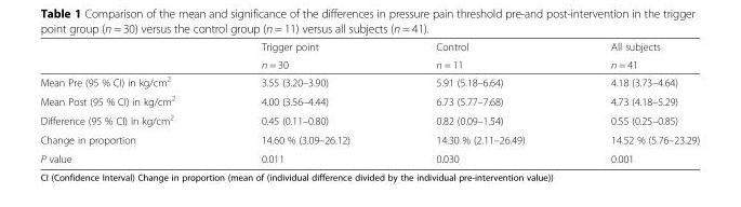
<table><thead><tr><td rowspan="2"></td><td rowspan="2">Trigger point n = 30</td><td rowspan="2">Control n = 11</td><td rowspan="2">All subjects n = 41</td></tr><tr></tr></thead><tbody><tr><td>Mean Pre (95 % CI) in kg/cm<sup>2</sup></td><td>3.55 (3.20–3.90)</td><td>5.91 (5.18–6.64)</td><td>4.18 (3.73–4.64)</td></tr><tr><td>Mean Post (95 % CI) in kg/cm<sup>2</sup></td><td>4.00 (3.56–4.44)</td><td>6.73 (5.77–7.68)</td><td>4.73 (4.18–5.29)</td></tr><tr><td>Difference (95 % CI) in kg/cm<sup>2</sup></td><td>0.45 (0.11–0.80)</td><td>0.82 (0.09–1.54)</td><td>0.55 (0.25–0.85)</td></tr><tr><td>Change in proportion</td><td>14.60 % (3.09–26.12)</td><td>14.30 % (2.11–26.49)</td><td>14.52 % (5.76–23.29)</td></tr><tr><td>P value</td><td>0.011</td><td>0.030</td><td>0.001</td></tr></tbody></table>